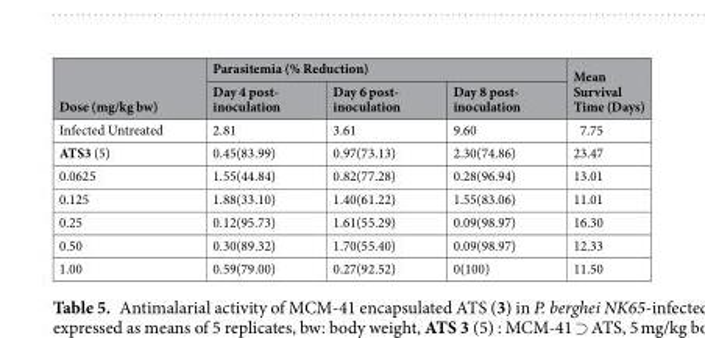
<table><thead><tr><td rowspan="2">Dose (mg/kg bw)</td><td colspan="3">Parasitemia (% Reduction)</td><td rowspan="2">Mean Survival Time (Days)</td></tr><tr><td>Day 4 post- inoculation</td><td>Day 6 post- inoculation</td><td>Day 8 post- inoculation</td></tr></thead><tbody><tr><td>Infected Untreated</td><td>2.81</td><td>3.61</td><td>9.60</td><td>7.75</td></tr><tr><td>ATS3 (5)</td><td>0.45(83.99)</td><td>0.97(73.13)</td><td>2.30(74.86)</td><td>23.47</td></tr><tr><td>0.0625</td><td>1.55(44.84)</td><td>0.82(77.28)</td><td>0.28(96.94)</td><td>13.01</td></tr><tr><td>0.125</td><td>1.88(33.10)</td><td>1.40(61.22)</td><td>1.55(83.06)</td><td>11.01</td></tr><tr><td>0.25</td><td>0.12(95.73)</td><td>1.61(55.29)</td><td>0.09(98.97)</td><td>16.30</td></tr><tr><td>0.50</td><td>0.30(89.32)</td><td>1.70(55.40)</td><td>0.09(98.97)</td><td>12.33</td></tr><tr><td>1.00</td><td>0.59(79.00)</td><td>0.27(92.52)</td><td>0(100)</td><td>11.50</td></tr></tbody></table>